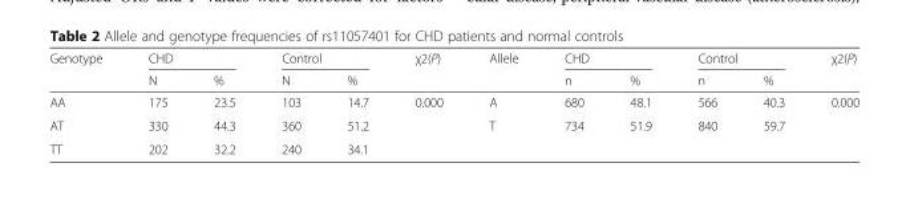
<table><thead><tr><td rowspan="2">Genotype</td><td colspan="2">CHD</td><td colspan="2">Control</td><td rowspan="2">χ2(P)</td><td rowspan="2">Allele</td><td colspan="2">CHD</td><td colspan="2">Control</td><td rowspan="2">χ2(P)</td></tr><tr><td>N</td><td>%</td><td>N</td><td>%</td><td>n</td><td>%</td><td>n</td><td>%</td></tr></thead><tbody><tr><td>AA</td><td>175</td><td>23.5</td><td>103</td><td>14.7</td><td>0.000</td><td>A</td><td>680</td><td>48.1</td><td>566</td><td>40.3</td><td>0.000</td></tr><tr><td>AT</td><td>330</td><td>44.3</td><td>360</td><td>51.2</td><td></td><td>T</td><td>734</td><td>51.9</td><td>840</td><td>59.7</td><td></td></tr><tr><td>TT</td><td>202</td><td>32.2</td><td>240</td><td>34.1</td><td></td><td></td><td></td><td></td><td></td><td></td><td></td></tr></tbody></table>